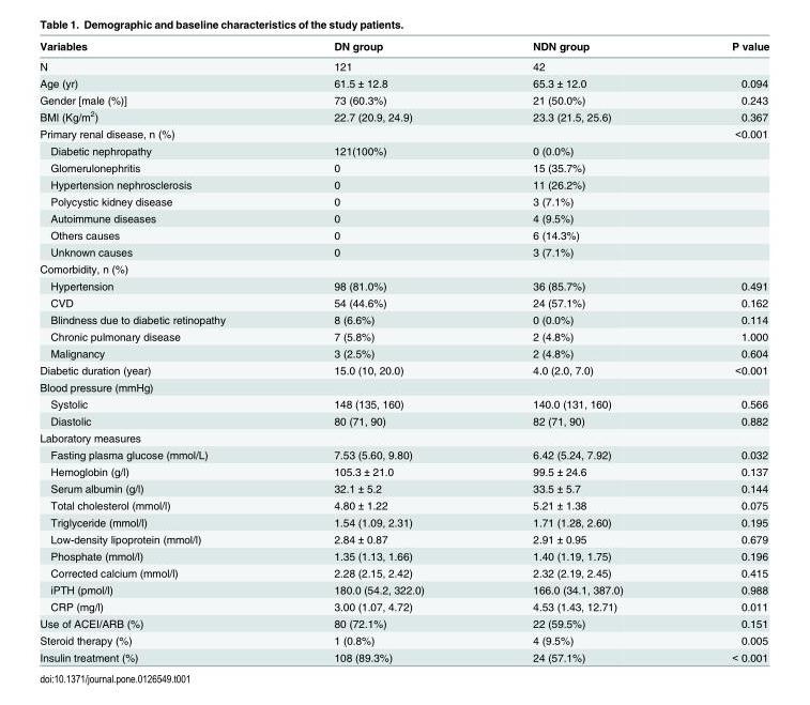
<table><thead><tr><td>Variables</td><td>DN group</td><td>NDN group</td><td>P value</td></tr></thead><tbody><tr><td>N</td><td>121</td><td>42</td><td></td></tr><tr><td>Age (yr)</td><td>61.5 ± 12.8</td><td>65.3 ± 12.0</td><td>0.094</td></tr><tr><td>Gender [male (%)]</td><td>73 (60.3%)</td><td>21 (50.0%)</td><td>0.243</td></tr><tr><td>BMI (Kg/m<sup>2</sup>)</td><td>22.7 (20.9, 24.9)</td><td>23.3 (21.5, 25.6)</td><td>0.367</td></tr><tr><td>Primary renal disease, n (%)</td><td></td><td></td><td>&lt;0.001</td></tr><tr><td>Diabetic nephropathy</td><td>121(100%)</td><td>0 (0.0%)</td><td></td></tr><tr><td>Glomerulonephritis</td><td>0</td><td>15 (35.7%)</td><td></td></tr><tr><td>Hypertension nephrosclerosis</td><td>0</td><td>11 (26.2%)</td><td></td></tr><tr><td>Polycystic kidney disease</td><td>0</td><td>3 (7.1%)</td><td></td></tr><tr><td>Autoimmune diseases</td><td>0</td><td>4 (9.5%)</td><td></td></tr><tr><td>Others causes</td><td>0</td><td>6 (14.3%)</td><td></td></tr><tr><td>Unknown causes</td><td>0</td><td>3 (7.1%)</td><td></td></tr><tr><td colspan="4">Comorbidity, n (%)</td></tr><tr><td>Hypertension</td><td>98 (81.0%)</td><td>36 (85.7%)</td><td>0.491</td></tr><tr><td>CVD</td><td>54 (44.6%)</td><td>24 (57.1%)</td><td>0.162</td></tr><tr><td>Blindness due to diabetic retinopathy</td><td>8 (6.6%)</td><td>0 (0.0%)</td><td>0.114</td></tr><tr><td>Chronic pulmonary disease</td><td>7 (5.8%)</td><td>2 (4.8%)</td><td>1.000</td></tr><tr><td>Malignancy</td><td>3 (2.5%)</td><td>2 (4.8%)</td><td>0.604</td></tr><tr><td>Diabetic duration (year)</td><td>15.0 (10, 20.0)</td><td>4.0 (2.0, 7.0)</td><td>&lt;0.001</td></tr><tr><td colspan="4">Blood pressure (mmHg)</td></tr><tr><td>Systolic</td><td>148 (135, 160)</td><td>140.0 (131, 160)</td><td>0.566</td></tr><tr><td>Diastolic</td><td>80 (71, 90)</td><td>82 (71, 90)</td><td>0.882</td></tr><tr><td colspan="4">Laboratory measures</td></tr><tr><td>Fasting plasma glucose (mmol/L)</td><td>7.53 (5.60, 9.80)</td><td>6.42 (5.24, 7.92)</td><td>0.032</td></tr><tr><td>Hemoglobin (g/l)</td><td>105.3 ± 21.0</td><td>99.5 ± 24.6</td><td>0.137</td></tr><tr><td>Serum albumin (g/l)</td><td>32.1 ± 5.2</td><td>33.5 ± 5.7</td><td>0.144</td></tr><tr><td>Total cholesterol (mmol/l)</td><td>4.80 ± 1.22</td><td>5.21 ± 1.38</td><td>0.075</td></tr><tr><td>Triglyceride (mmol/l)</td><td>1.54 (1.09, 2.31)</td><td>1.71 (1.28, 2.60)</td><td>0.195</td></tr><tr><td>Low-density lipoprotein (mmol/l)</td><td>2.84 ± 0.87</td><td>2.91 ± 0.95</td><td>0.679</td></tr><tr><td>Phosphate (mmol/l)</td><td>1.35 (1.13, 1.66)</td><td>1.40 (1.19, 1.75)</td><td>0.196</td></tr><tr><td>Corrected calcium (mmol/l)</td><td>2.28 (2.15, 2.42)</td><td>2.32 (2.19, 2.45)</td><td>0.415</td></tr><tr><td>iPTH (pmol/l)</td><td>180.0 (54.2, 322.0)</td><td>166.0 (34.1, 387.0)</td><td>0.988</td></tr><tr><td>CRP (mg/l)</td><td>3.00 (1.07, 4.72)</td><td>4.53 (1.43, 12.71)</td><td>0.011</td></tr><tr><td>Use of ACEI/ARB (%)</td><td>80 (72.1%)</td><td>22 (59.5%)</td><td>0.151</td></tr><tr><td>Steroid therapy (%)</td><td>1 (0.8%)</td><td>4 (9.5%)</td><td>0.005</td></tr><tr><td>Insulin treatment (%)</td><td>108 (89.3%)</td><td>24 (57.1%)</td><td>&lt; 0.001</td></tr></tbody></table>